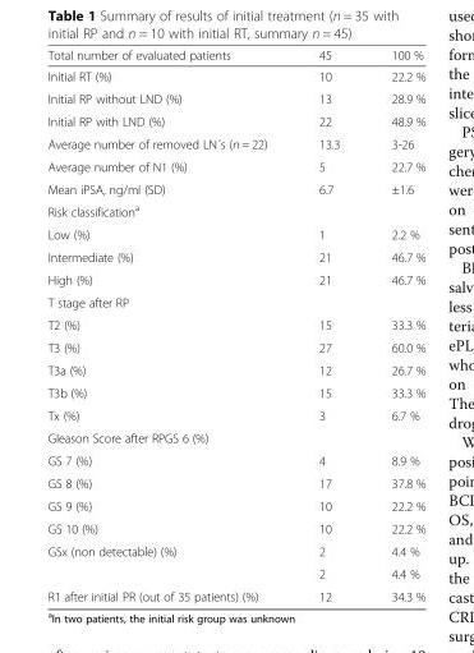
<table><thead><tr><td>Total number of evaluated patients</td><td>45</td><td>100 %</td></tr></thead><tbody><tr><td>Initial RT (%)</td><td>10</td><td>22.2 %</td></tr><tr><td>Initial RP without LND (%)</td><td>13</td><td>28.9 %</td></tr><tr><td>Initial RP with LND (%)</td><td>22</td><td>48.9 %</td></tr><tr><td>Average number of removed LN´s (n = 22)</td><td>13.3</td><td>3-26</td></tr><tr><td>Average number of N1 (%)</td><td>5</td><td>22.7 %</td></tr><tr><td>Mean iPSA, ng/ml (SD)</td><td>6.7</td><td>±1.6</td></tr><tr><td colspan="3">Risk classification<sup>a</sup></td></tr><tr><td>Low (%)</td><td>1</td><td>2.2 %</td></tr><tr><td>Intermediate (%)</td><td>21</td><td>46.7 %</td></tr><tr><td>High (%)</td><td>21</td><td>46.7 %</td></tr><tr><td colspan="3">T stage after RP</td></tr><tr><td>T2 (%)</td><td>15</td><td>33.3 %</td></tr><tr><td>T3 (%)</td><td>27</td><td>60.0 %</td></tr><tr><td>T3a (%)</td><td>12</td><td>26.7 %</td></tr><tr><td>T3b (%)</td><td>15</td><td>33.3 %</td></tr><tr><td>Tx (%)</td><td>3</td><td>6.7 %</td></tr><tr><td colspan="3">Gleason Score after RPGS 6 (%)</td></tr><tr><td>GS 7 (%)</td><td>4</td><td>8.9 %</td></tr><tr><td>GS 8 (%)</td><td>17</td><td>37.8 %</td></tr><tr><td>GS 9 (%)</td><td>10</td><td>22.2 %</td></tr><tr><td>GS 10 (%)</td><td>10</td><td>22.2 %</td></tr><tr><td rowspan="2">GSx (non detectable) (%)</td><td>2</td><td>4.4 %</td></tr><tr><td>2</td><td>4.4 %</td></tr><tr><td>R1 after initial PR (out of 35 patients) (%)</td><td>12</td><td>34.3 %</td></tr></tbody></table>